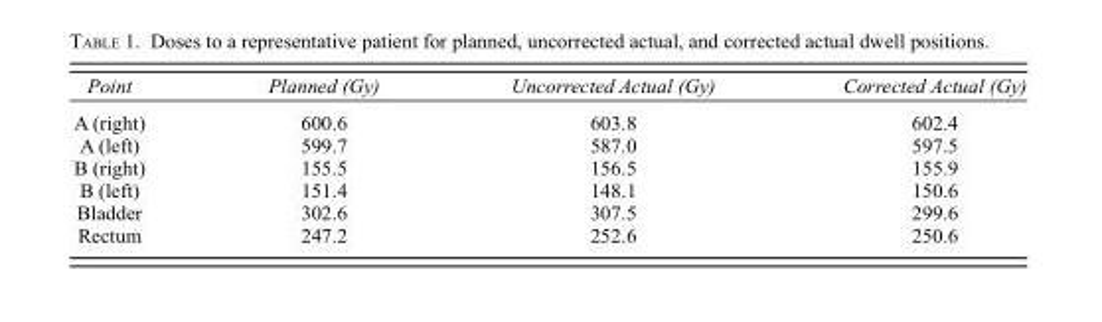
<table><thead><tr><td>Point</td><td>Planned (Gy)</td><td>Uncorrected Actual (Gy)</td><td>Corrected Actual (Gy)</td></tr></thead><tbody><tr><td>A (right)</td><td>600.6</td><td>603.8</td><td>602.4</td></tr><tr><td>A (left)</td><td>599.7</td><td>587.0</td><td>597.5</td></tr><tr><td>B (right)</td><td>155.5</td><td>156.5</td><td>155.9</td></tr><tr><td>B (left)</td><td>151.4</td><td>148.1</td><td>150.6</td></tr><tr><td>Bladder</td><td>302.6</td><td>307.5</td><td>299.6</td></tr><tr><td>Rectum</td><td>247.2</td><td>252.6</td><td>250.6</td></tr></tbody></table>